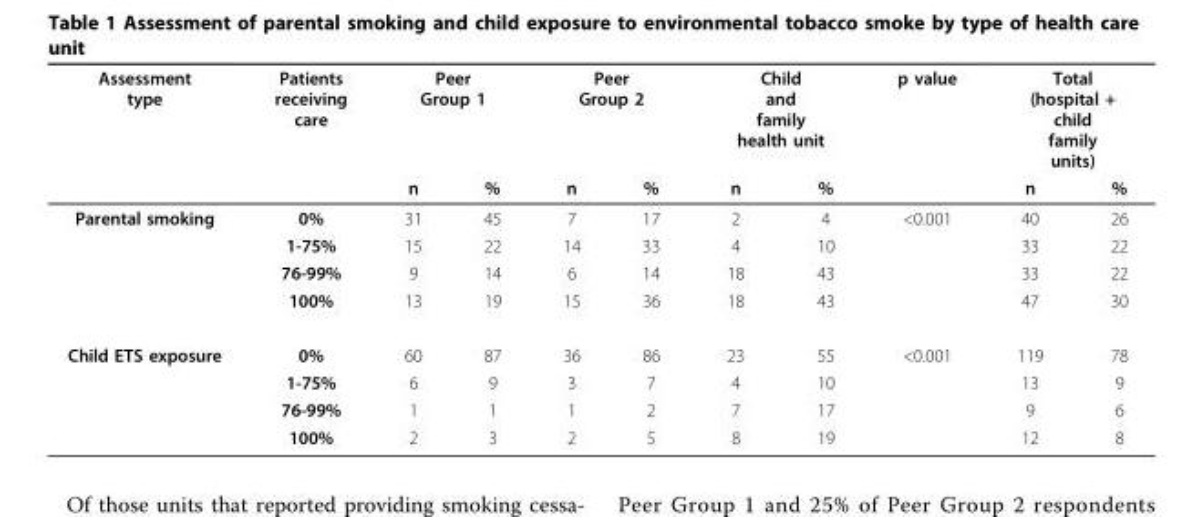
<table><thead><tr><td rowspan="2">Assessment type</td><td rowspan="2">Patients receiving care</td><td colspan="2">Peer Group 1</td><td colspan="2">Peer Group 2</td><td colspan="2">Child and family health unit</td><td rowspan="2">p value</td><td colspan="2">Total (hospital + child family units)</td></tr><tr><td>n</td><td>%</td><td>n</td><td>%</td><td>n</td><td>%</td><td>n</td><td>%</td></tr></thead><tbody><tr><td rowspan="4">Parental smoking</td><td>0%</td><td>31</td><td>45</td><td>7</td><td>17</td><td>2</td><td>4</td><td>&lt;0.001</td><td>40</td><td>26</td></tr><tr><td>1-75%</td><td>15</td><td>22</td><td>14</td><td>33</td><td>4</td><td>10</td><td></td><td>33</td><td>22</td></tr><tr><td>76-99%</td><td>9</td><td>14</td><td>6</td><td>14</td><td>18</td><td>43</td><td></td><td>33</td><td>22</td></tr><tr><td>100%</td><td>13</td><td>19</td><td>15</td><td>36</td><td>18</td><td>43</td><td></td><td>47</td><td>30</td></tr><tr><td rowspan="4">Child ETS exposure</td><td>0%</td><td>60</td><td>87</td><td>36</td><td>86</td><td>23</td><td>55</td><td>&lt;0.001</td><td>119</td><td>78</td></tr><tr><td>1-75%</td><td>6</td><td>9</td><td>3</td><td>7</td><td>4</td><td>10</td><td></td><td>13</td><td>9</td></tr><tr><td>76-99%</td><td>1</td><td>1</td><td>1</td><td>2</td><td>7</td><td>17</td><td></td><td>9</td><td>6</td></tr><tr><td>100%</td><td>2</td><td>3</td><td>2</td><td>5</td><td>8</td><td>19</td><td></td><td>12</td><td>8</td></tr></tbody></table>